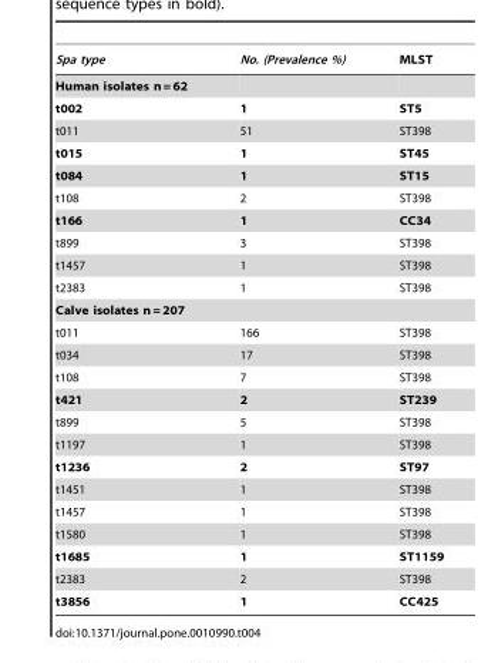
<table><thead><tr><td>Spa type</td><td>No. (Prevalence %)</td><td>MLST</td></tr></thead><tbody><tr><td colspan="3">Human isolates n = 62</td></tr><tr><td>t002</td><td>1</td><td>ST5</td></tr><tr><td>t011</td><td>51</td><td>ST398</td></tr><tr><td>t015</td><td>1</td><td>ST45</td></tr><tr><td>t084</td><td>1</td><td>ST15</td></tr><tr><td>t108</td><td>2</td><td>ST398</td></tr><tr><td>t166</td><td>1</td><td>CC34</td></tr><tr><td>t899</td><td>3</td><td>ST398</td></tr><tr><td>t1457</td><td>1</td><td>ST398</td></tr><tr><td>t2383</td><td>1</td><td>ST398</td></tr><tr><td colspan="3">Calve isolates n = 207</td></tr><tr><td>t011</td><td>166</td><td>ST398</td></tr><tr><td>t034</td><td>17</td><td>ST398</td></tr><tr><td>t108</td><td>7</td><td>ST398</td></tr><tr><td>t421</td><td>2</td><td>ST239</td></tr><tr><td>t899</td><td>5</td><td>ST398</td></tr><tr><td>t1197</td><td>1</td><td>ST398</td></tr><tr><td>t1236</td><td>2</td><td>ST97</td></tr><tr><td>t1451</td><td>1</td><td>ST398</td></tr><tr><td>t1457</td><td>1</td><td>ST398</td></tr><tr><td>t1580</td><td>1</td><td>ST398</td></tr><tr><td>t1685</td><td>1</td><td>ST1159</td></tr><tr><td>t2383</td><td>2</td><td>ST398</td></tr><tr><td>t3856</td><td>1</td><td>CC425</td></tr></tbody></table>